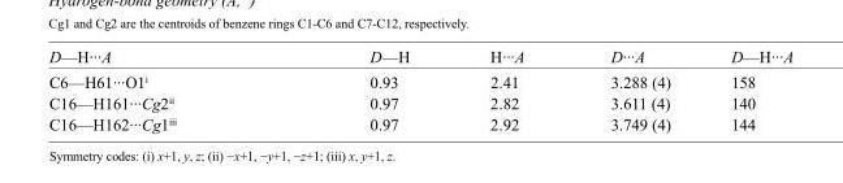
<table><tbody><tr><td>D—H···A</td><td>D—H</td><td>H···A</td><td>D···A</td><td>D—H···A</td></tr><tr><td>C6—H61···O1<sup>i</sup></td><td>0.93</td><td>2.41</td><td>3.288 (4)</td><td>158</td></tr><tr><td>C16—H161···Cg2<sup>ii</sup></td><td>0.97</td><td>2.82</td><td>3.611 (4)</td><td>140</td></tr><tr><td>C16—H162···Cg1<sup>iii</sup></td><td>0.97</td><td>2.92</td><td>3.749 (4)</td><td>144</td></tr></tbody></table>